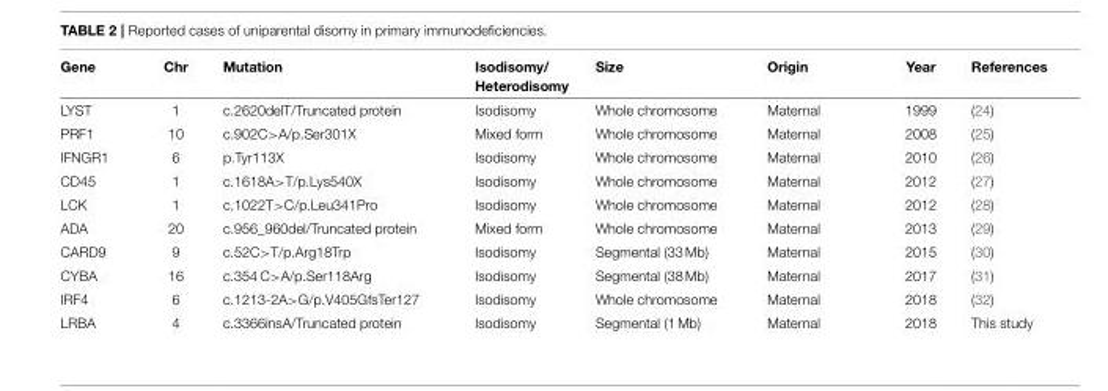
<table><thead><tr><td>Gene</td><td>Chr</td><td>Mutation</td><td>Isodisomy/ Heterodisomy</td><td>Size</td><td>Origin</td><td>Year</td><td>References</td></tr></thead><tbody><tr><td>LYST</td><td>1</td><td>c.2620delT/Truncated protein</td><td>Isodisomy</td><td>Whole chromosome</td><td>Maternal</td><td>1999</td><td>(24)</td></tr><tr><td>PRF1</td><td>10</td><td>c.902C&gt;A/p.Ser301X</td><td>Mixed form</td><td>Whole chromosome</td><td>Maternal</td><td>2008</td><td>(25)</td></tr><tr><td>IFNGR1</td><td>6</td><td>p.Tyr113X</td><td>Isodisomy</td><td>Whole chromosome</td><td>Maternal</td><td>2010</td><td>(26)</td></tr><tr><td>CD45</td><td>1</td><td>c.1618A&gt;T/p.Lys540X</td><td>Isodisomy</td><td>Whole chromosome</td><td>Maternal</td><td>2012</td><td>(27)</td></tr><tr><td>LCK</td><td>1</td><td>c.1022T&gt;C/p.Leu341Pro</td><td>Isodisomy</td><td>Whole chromosome</td><td>Maternal</td><td>2012</td><td>(28)</td></tr><tr><td>ADA</td><td>20</td><td>c.956_960del/Truncated protein</td><td>Mixed form</td><td>Whole chromosome</td><td>Maternal</td><td>2013</td><td>(29)</td></tr><tr><td>CARD9</td><td>9</td><td>c.52C&gt;T/p.Arg18Trp</td><td>Isodisomy</td><td>Segmental (33 Mb)</td><td>Maternal</td><td>2015</td><td>(30)</td></tr><tr><td>CYBA</td><td>16</td><td>c.354 C&gt;A/p.Ser118Arg</td><td>Isodisomy</td><td>Segmental (38 Mb)</td><td>Maternal</td><td>2017</td><td>(31)</td></tr><tr><td>IRF4</td><td>6</td><td>c.1213-2A&gt;G/p.V405GfsTer127</td><td>Isodisomy</td><td>Whole chromosome</td><td>Maternal</td><td>2018</td><td>(32)</td></tr><tr><td>LRBA</td><td>4</td><td>c.3366insA/Truncated protein</td><td>Isodisomy</td><td>Segmental (1 Mb)</td><td>Maternal</td><td>2018</td><td>This study</td></tr></tbody></table>